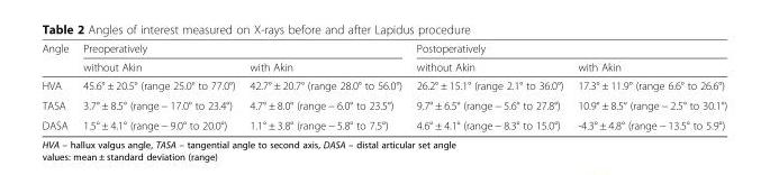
<table><thead><tr><td rowspan="2">Angle</td><td colspan="2">Preoperatively</td><td colspan="2">Postoperatively</td></tr><tr><td>without Akin</td><td>with Akin</td><td>without Akin</td><td>with Akin</td></tr></thead><tbody><tr><td>HVA</td><td>45.6° ± 20.5° (range 25.0° to 77.0°)</td><td>42.7° ± 20.7° (range 28.0° to 56.0°)</td><td>26.2° ± 15.1° (range 2.1° to 36.0°)</td><td>17.3° ± 11.9° (range 6.6° to 26.6°)</td></tr><tr><td>TASA</td><td>3.7° ± 8.5° (range − 17.0° to 23.4°)</td><td>4.7° ± 8.0° (range − 6.0° to 23.5°)</td><td>9.7° ± 6.5° (range − 5.6° to 27.8°)</td><td>10.9° ± 8.5° (range − 2.5° to 30.1°)</td></tr><tr><td>DASA</td><td>1.5° ± 4.1° (range − 9.0° to 20.0°)</td><td>1.1° ± 3.8° (range − 5.8° to 7.5°)</td><td>4.6° ± 4.1° (range − 8.3° to 15.0°)</td><td>-4.3° ± 4.8° (range − 13.5° to 5.9°)</td></tr></tbody></table>